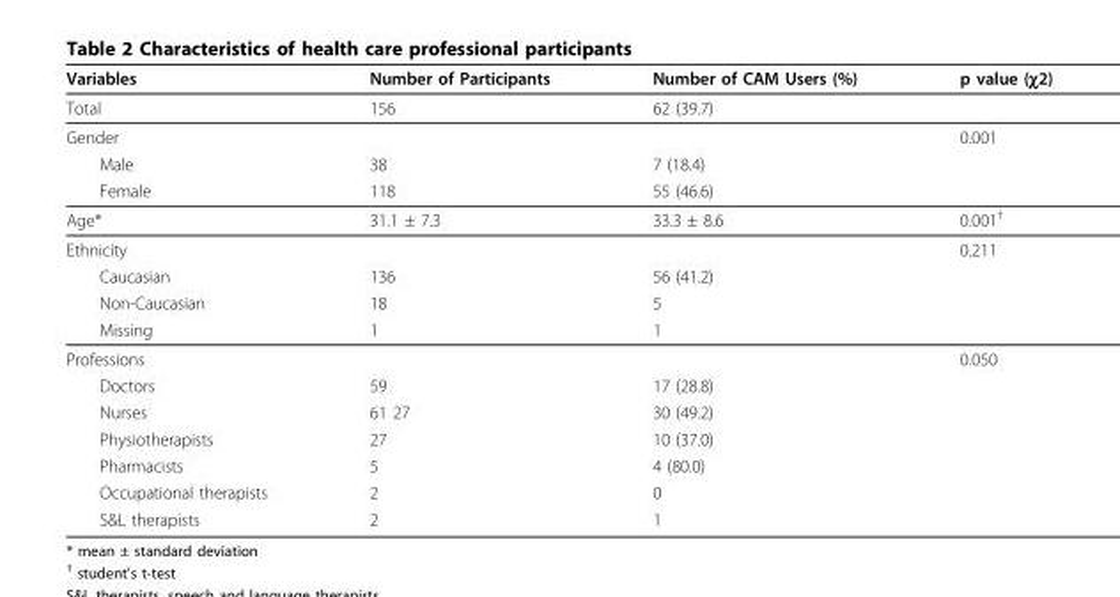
<table><thead><tr><td>Variables</td><td>Number of Participants</td><td>Number of CAM Users (%)</td><td>p value (χ2)</td></tr></thead><tbody><tr><td>Total</td><td>156</td><td>62 (39.7)</td><td></td></tr><tr><td>Gender</td><td></td><td></td><td>0.001</td></tr><tr><td>Male</td><td>38</td><td>7 (18.4)</td><td></td></tr><tr><td>Female</td><td>118</td><td>55 (46.6)</td><td></td></tr><tr><td>Age*</td><td>31.1 ± 7.3</td><td>33.3 ± 8.6</td><td>0.001<sup>†</sup></td></tr><tr><td>Ethnicity</td><td></td><td></td><td>0.211</td></tr><tr><td>Caucasian</td><td>136</td><td>56 (41.2)</td><td></td></tr><tr><td>Non-Caucasian</td><td>18</td><td>5</td><td></td></tr><tr><td>Missing</td><td>1</td><td>1</td><td></td></tr><tr><td>Professions</td><td></td><td></td><td>0.050</td></tr><tr><td>Doctors</td><td>59</td><td>17 (28.8)</td><td></td></tr><tr><td>Nurses</td><td>61 27</td><td>30 (49.2)</td><td></td></tr><tr><td>Physiotherapists</td><td>27</td><td>10 (37.0)</td><td></td></tr><tr><td>Pharmacists</td><td>5</td><td>4 (80.0)</td><td></td></tr><tr><td>Occupational therapists</td><td>2</td><td>0</td><td></td></tr><tr><td>S&amp;L therapists</td><td>2</td><td>1</td><td></td></tr></tbody></table>